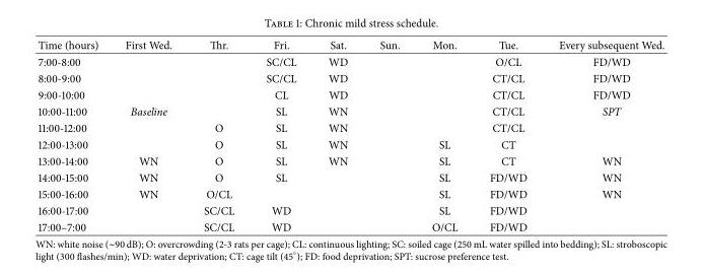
<table><thead><tr><td>Time (hours)</td><td>First Wed.</td><td>Thr.</td><td>Fri.</td><td>Sat.</td><td>Sun.</td><td>Mon.</td><td>Tue.</td><td>Every subsequent Wed.</td></tr></thead><tbody><tr><td>7:00-8:00</td><td></td><td></td><td>SC/CL</td><td>WD</td><td></td><td></td><td>O/CL</td><td>FD/WD</td></tr><tr><td>8:00-9:00</td><td></td><td></td><td>SC/CL</td><td>WD</td><td></td><td></td><td>CT/CL</td><td>FD/WD</td></tr><tr><td>9:00-10:00</td><td></td><td></td><td>CL</td><td>WD</td><td></td><td></td><td>CT/CL</td><td>FD/WD</td></tr><tr><td>10:00-11:00</td><td>Baseline</td><td></td><td>SL</td><td>WN</td><td></td><td></td><td>CT/CL</td><td>SPT</td></tr><tr><td>11:00-12:00</td><td></td><td>O</td><td>SL</td><td>WN</td><td></td><td></td><td>CT/CL</td><td></td></tr><tr><td>12:00-13:00</td><td></td><td>O</td><td>SL</td><td>WN</td><td></td><td>SL</td><td>CT</td><td></td></tr><tr><td>13:00-14:00</td><td>WN</td><td>O</td><td>SL</td><td>WN</td><td></td><td>SL</td><td>CT</td><td>WN</td></tr><tr><td>14:00-15:00</td><td>WN</td><td>O</td><td>SL</td><td></td><td></td><td>SL</td><td>FD/WD</td><td>WN</td></tr><tr><td>15:00-16:00</td><td>WN</td><td>O/CL</td><td></td><td></td><td></td><td>SL</td><td>FD/WD</td><td>WN</td></tr><tr><td>16:00-17:00</td><td></td><td>SC/CL</td><td>WD</td><td></td><td></td><td>SL</td><td>FD/WD</td><td></td></tr><tr><td>17:00–7:00</td><td></td><td>SC/CL</td><td>WD</td><td></td><td></td><td>O/CL</td><td>FD/WD</td><td></td></tr></tbody></table>